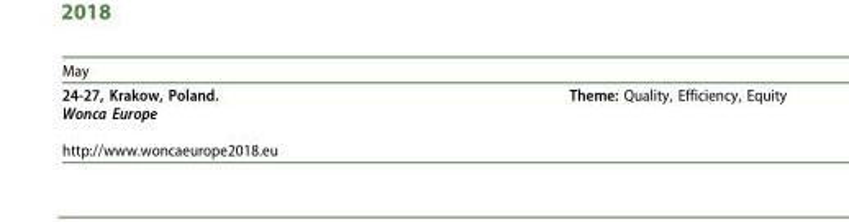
<table><thead><tr><td>May</td><td></td></tr></thead><tbody><tr><td>24-27, Krakow, Poland. Wonca Europe http://www.woncaeurope2018.eu</td><td>Theme: Quality, Efficiency, Equity</td></tr></tbody></table>